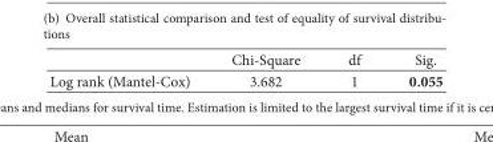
<table><thead><tr><td></td><td>Chi-Square</td><td>df</td><td>Sig.</td></tr></thead><tbody><tr><td>Log rank (Mantel-Cox)</td><td>3.682</td><td>1</td><td>0.055</td></tr></tbody></table>